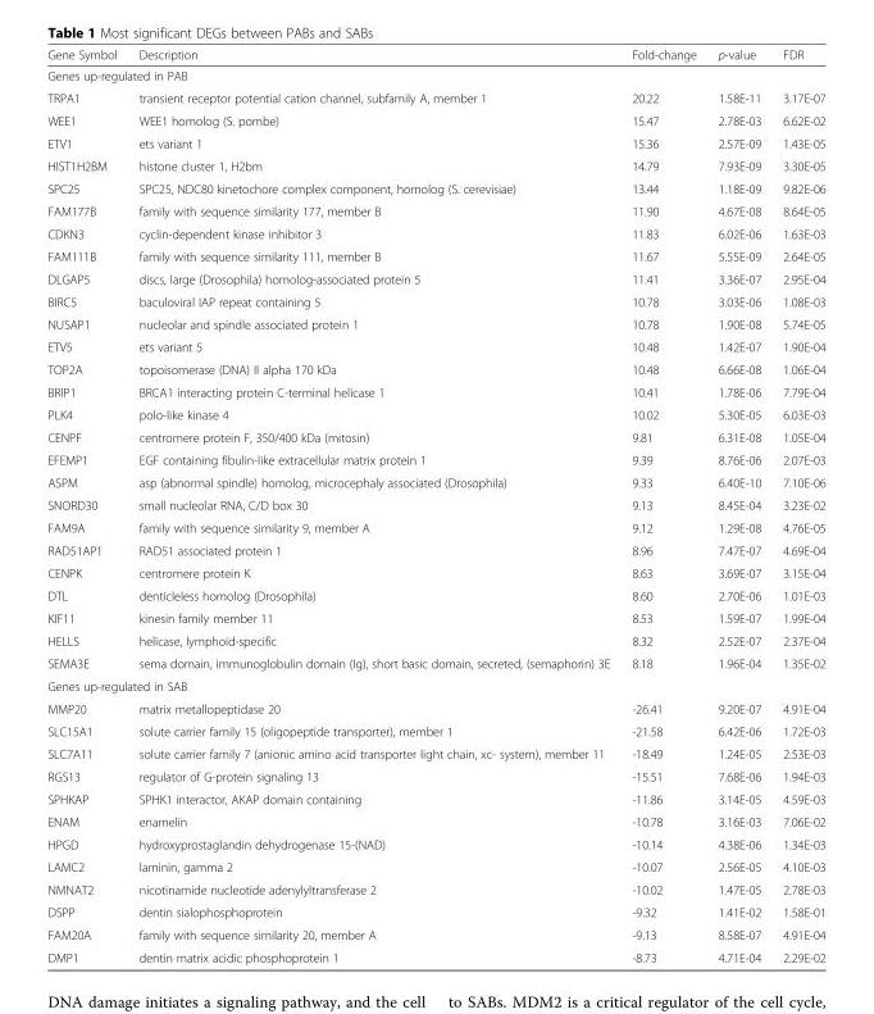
<table><thead><tr><td>Gene Symbol</td><td>Description</td><td>Fold-change</td><td>p-value</td><td>FDR</td></tr></thead><tbody><tr><td colspan="5">Genes up-regulated in PAB</td></tr><tr><td>TRPA1</td><td>transient receptor potential cation channel, subfamily A, member 1</td><td>20.22</td><td>1.58E-11</td><td>3.17E-07</td></tr><tr><td>WEE1</td><td>WEE1 homolog (S. pombe)</td><td>15.47</td><td>2.78E-03</td><td>6.62E-02</td></tr><tr><td>ETV1</td><td>ets variant 1</td><td>15.36</td><td>2.57E-09</td><td>1.43E-05</td></tr><tr><td>HIST1H2BM</td><td>histone cluster 1, H2bm</td><td>14.79</td><td>7.93E-09</td><td>3.30E-05</td></tr><tr><td>SPC25</td><td>SPC25, NDC80 kinetochore complex component, homolog (S. cerevisiae)</td><td>13.44</td><td>1.18E-09</td><td>9.82E-06</td></tr><tr><td>FAM177B</td><td>family with sequence similarity 177, member B</td><td>11.90</td><td>4.67E-08</td><td>8.64E-05</td></tr><tr><td>CDKN3</td><td>cyclin-dependent kinase inhibitor 3</td><td>11.83</td><td>6.02E-06</td><td>1.63E-03</td></tr><tr><td>FAM111B</td><td>family with sequence similarity 111, member B</td><td>11.67</td><td>5.55E-09</td><td>2.64E-05</td></tr><tr><td>DLGAP5</td><td>discs, large (Drosophila) homolog-associated protein 5</td><td>11.41</td><td>3.36E-07</td><td>2.95E-04</td></tr><tr><td>BIRC5</td><td>baculoviral IAP repeat containing 5</td><td>10.78</td><td>3.03E-06</td><td>1.08E-03</td></tr><tr><td>NUSAP1</td><td>nucleolar and spindle associated protein 1</td><td>10.78</td><td>1.90E-08</td><td>5.74E-05</td></tr><tr><td>ETV5</td><td>ets variant 5</td><td>10.48</td><td>1.42E-07</td><td>1.90E-04</td></tr><tr><td>TOP2A</td><td>topoisomerase (DNA) II alpha 170 kDa</td><td>10.48</td><td>6.66E-08</td><td>1.06E-04</td></tr><tr><td>BRIP1</td><td>BRCA1 interacting protein C-terminal helicase 1</td><td>10.41</td><td>1.78E-06</td><td>7.79E-04</td></tr><tr><td>PLK4</td><td>polo-like kinase 4</td><td>10.02</td><td>5.30E-05</td><td>6.03E-03</td></tr><tr><td>CENPF</td><td>centromere protein F, 350/400 kDa (mitosin)</td><td>9.81</td><td>6.31E-08</td><td>1.05E-04</td></tr><tr><td>EFEMP1</td><td>EGF containing fibulin-like extracellular matrix protein 1</td><td>9.39</td><td>8.76E-06</td><td>2.07E-03</td></tr><tr><td>ASPM</td><td>asp (abnormal spindle) homolog, microcephaly associated (Drosophila)</td><td>9.33</td><td>6.40E-10</td><td>7.10E-06</td></tr><tr><td>SNORD30</td><td>small nucleolar RNA, C/D box 30</td><td>9.13</td><td>8.45E-04</td><td>3.23E-02</td></tr><tr><td>FAM9A</td><td>family with sequence similarity 9, member A</td><td>9.12</td><td>1.29E-08</td><td>4.76E-05</td></tr><tr><td>RAD51AP1</td><td>RAD51 associated protein 1</td><td>8.96</td><td>7.47E-07</td><td>4.69E-04</td></tr><tr><td>CENPK</td><td>centromere protein K</td><td>8.63</td><td>3.69E-07</td><td>3.15E-04</td></tr><tr><td>DTL</td><td>denticleless homolog (Drosophila)</td><td>8.60</td><td>2.70E-06</td><td>1.01E-03</td></tr><tr><td>KIF11</td><td>kinesin family member 11</td><td>8.53</td><td>1.59E-07</td><td>1.99E-04</td></tr><tr><td>HELLS</td><td>helicase, lymphoid-specific</td><td>8.32</td><td>2.52E-07</td><td>2.37E-04</td></tr><tr><td>SEMA3E</td><td>sema domain, immunoglobulin domain (Ig), short basic domain, secreted, (semaphorin) 3E</td><td>8.18</td><td>1.96E-04</td><td>1.35E-02</td></tr><tr><td colspan="5">Genes up-regulated in SAB</td></tr><tr><td>MMP20</td><td>matrix metallopeptidase 20</td><td>-26.41</td><td>9.20E-07</td><td>4.91E-04</td></tr><tr><td>SLC15A1</td><td>solute carrier family 15 (oligopeptide transporter), member 1</td><td>-21.58</td><td>6.42E-06</td><td>1.72E-03</td></tr><tr><td>SLC7A11</td><td>solute carrier family 7 (anionic amino acid transporter light chain, xc- system), member 11</td><td>-18.49</td><td>1.24E-05</td><td>2.53E-03</td></tr><tr><td>RGS13</td><td>regulator of G-protein signaling 13</td><td>-15.51</td><td>7.68E-06</td><td>1.94E-03</td></tr><tr><td>SPHKAP</td><td>SPHK1 interactor, AKAP domain containing</td><td>-11.86</td><td>3.14E-05</td><td>4.59E-03</td></tr><tr><td>ENAM</td><td>enamelin</td><td>-10.78</td><td>3.16E-03</td><td>7.06E-02</td></tr><tr><td>HPGD</td><td>hydroxyprostaglandin dehydrogenase 15-(NAD)</td><td>-10.14</td><td>4.38E-06</td><td>1.34E-03</td></tr><tr><td>LAMC2</td><td>laminin, gamma 2</td><td>-10.07</td><td>2.56E-05</td><td>4.10E-03</td></tr><tr><td>NMNAT2</td><td>nicotinamide nucleotide adenylyltransferase 2</td><td>-10.02</td><td>1.47E-05</td><td>2.78E-03</td></tr><tr><td>DSPP</td><td>dentin sialophosphoprotein</td><td>-9.32</td><td>1.41E-02</td><td>1.58E-01</td></tr><tr><td>FAM20A</td><td>family with sequence similarity 20, member A</td><td>-9.13</td><td>8.58E-07</td><td>4.91E-04</td></tr><tr><td>DMP1</td><td>dentin matrix acidic phosphoprotein 1</td><td>-8.73</td><td>4.71E-04</td><td>2.29E-02</td></tr></tbody></table>